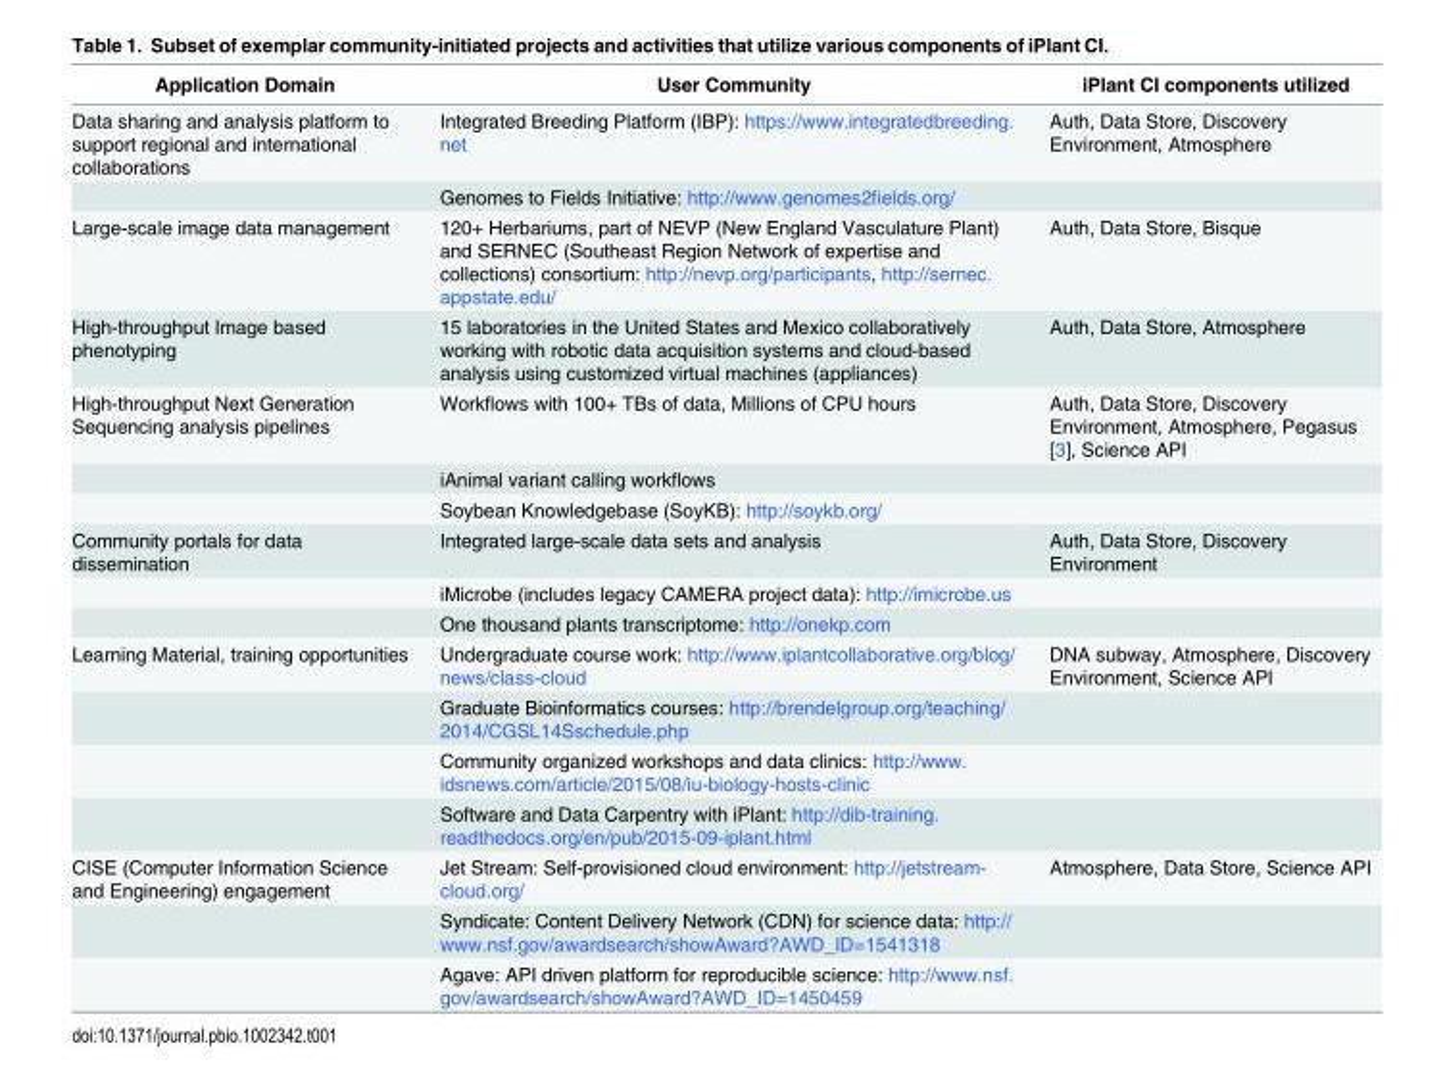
<table><thead><tr><td>Application Domain</td><td>User Community</td><td>iPlant CI components utilized</td></tr></thead><tbody><tr><td rowspan="2">Data sharing and analysis platform to support regional and international collaborations</td><td>Integrated Breeding Platform (IBP): https://www.integratedbreeding. net</td><td>Auth, Data Store, Discovery Environment, Atmosphere</td></tr><tr><td>Genomes to Fields Initiative: http://www.genomes2fields.org/</td><td></td></tr><tr><td>Large-scale image data management</td><td>120+ Herbariums, part of NEVP (New England Vasculature Plant) and SERNEC (Southeast Region Network of expertise and collections) consortium: http://nevp.org/participants, http://sernec. appstate.edu/</td><td>Auth, Data Store, Bisque</td></tr><tr><td>High-throughput Image based phenotyping</td><td>15 laboratories in the United States and Mexico collaboratively working with robotic data acquisition systems and cloud-based analysis using customized virtual machines (appliances)</td><td>Auth, Data Store, Atmosphere</td></tr><tr><td rowspan="3">High-throughput Next Generation Sequencing analysis pipelines</td><td>Workflows with 100+ TBs of data, Millions of CPU hours</td><td>Auth, Data Store, Discovery Environment, Atmosphere, Pegasus [3], Science API</td></tr><tr><td>iAnimal variant calling workflows</td><td></td></tr><tr><td>Soybean Knowledgebase (SoyKB): http://soykb.org/</td><td></td></tr><tr><td rowspan="3">Community portals for data dissemination</td><td>Integrated large-scale data sets and analysis</td><td>Auth, Data Store, Discovery Environment</td></tr><tr><td>iMicrobe (includes legacy CAMERA project data): http://imicrobe.us</td><td></td></tr><tr><td>One thousand plants transcriptome: http://onekp.com</td><td></td></tr><tr><td rowspan="4">Learning Material, training opportunities</td><td>Undergraduate course work: http://www.iplantcollaborative.org/blog/ news/class-cloud</td><td>DNA subway, Atmosphere, Discovery Environment, Science API</td></tr><tr><td>Graduate Bioinformatics courses: http://brendelgroup.org/teaching/ 2014/CGSL14Sschedule.php</td><td></td></tr><tr><td>Community organized workshops and data clinics: http://www. idsnews.com/article/2015/08/iu-biology-hosts-clinic</td><td></td></tr><tr><td>Software and Data Carpentry with iPlant: http://dib-training. readthedocs.org/en/pub/2015-09-iplant.html</td><td></td></tr><tr><td rowspan="3">CISE (Computer Information Science and Engineering) engagement</td><td>Jet Stream: Self-provisioned cloud environment: http://jetstream- cloud.org/</td><td>Atmosphere, Data Store, Science API</td></tr><tr><td>Syndicate: Content Delivery Network (CDN) for science data: http:// www.nsf.gov/awardsearch/showAward?AWD_ID=1541318</td><td></td></tr><tr><td>Agave: API driven platform for reproducible science: http://www.nsf. gov/awardsearch/showAward?AWD_ID=1450459</td><td></td></tr></tbody></table>